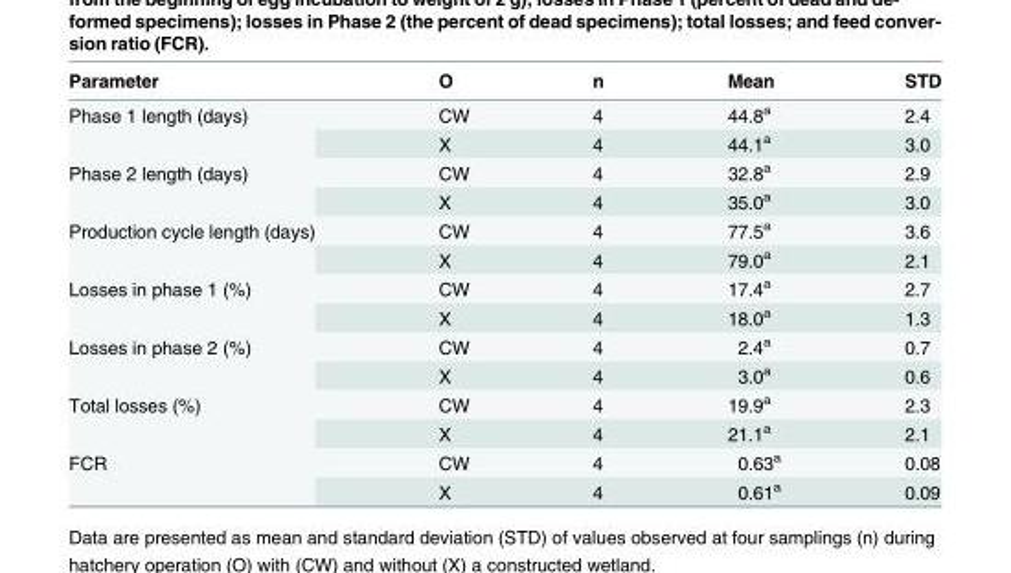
<table><thead><tr><td>Parameter</td><td>O</td><td>n</td><td>Mean</td><td>STD</td></tr></thead><tbody><tr><td rowspan="2">Phase 1 length (days)</td><td>CW</td><td>4</td><td>44.8<sup>a</sup></td><td>2.4</td></tr><tr><td>X</td><td>4</td><td>44.1<sup>a</sup></td><td>3.0</td></tr><tr><td rowspan="2">Phase 2 length (days)</td><td>CW</td><td>4</td><td>32.8<sup>a</sup></td><td>2.9</td></tr><tr><td>X</td><td>4</td><td>35.0<sup>a</sup></td><td>3.0</td></tr><tr><td rowspan="2">Production cycle length (days)</td><td>CW</td><td>4</td><td>77.5<sup>a</sup></td><td>3.6</td></tr><tr><td>X</td><td>4</td><td>79.0<sup>a</sup></td><td>2.1</td></tr><tr><td rowspan="2">Losses in phase 1 (%)</td><td>CW</td><td>4</td><td>17.4<sup>a</sup></td><td>2.7</td></tr><tr><td>X</td><td>4</td><td>18.0<sup>a</sup></td><td>1.3</td></tr><tr><td rowspan="2">Losses in phase 2 (%)</td><td>CW</td><td>4</td><td>2.4<sup>a</sup></td><td>0.7</td></tr><tr><td>X</td><td>4</td><td>3.0<sup>a</sup></td><td>0.6</td></tr><tr><td rowspan="2">Total losses (%)</td><td>CW</td><td>4</td><td>19.9<sup>a</sup></td><td>2.3</td></tr><tr><td>X</td><td>4</td><td>21.1<sup>a</sup></td><td>2.1</td></tr><tr><td rowspan="2">FCR</td><td>CW</td><td>4</td><td>0.63<sup>a</sup></td><td>0.08</td></tr><tr><td>X</td><td>4</td><td>0.61<sup>a</sup></td><td>0.09</td></tr></tbody></table>